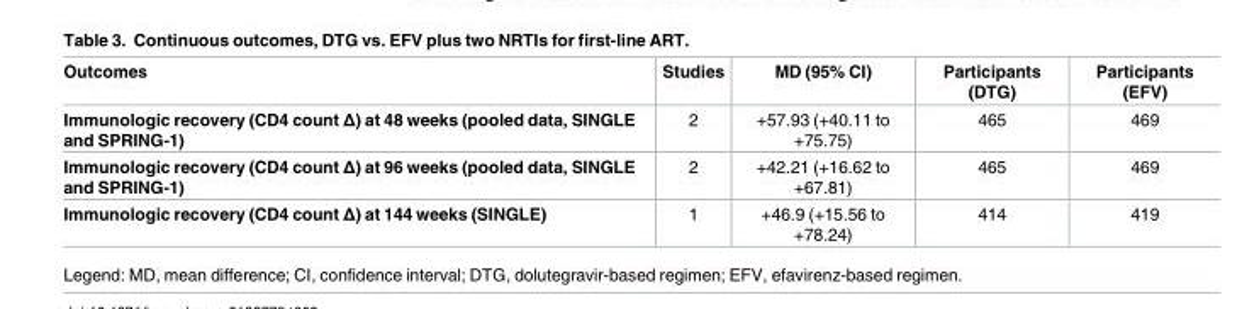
<table><thead><tr><td>Outcomes</td><td>Studies</td><td>MD (95% CI)</td><td>Participants (DTG)</td><td>Participants (EFV)</td></tr></thead><tbody><tr><td>Immunologic recovery (CD4 count Δ) at 48 weeks (pooled data, SINGLE and SPRING-1)</td><td>2</td><td>+57.93 (+40.11 to +75.75)</td><td>465</td><td>469</td></tr><tr><td>Immunologic recovery (CD4 count Δ) at 96 weeks (pooled data, SINGLE and SPRING-1)</td><td>2</td><td>+42.21 (+16.62 to +67.81)</td><td>465</td><td>469</td></tr><tr><td>Immunologic recovery (CD4 count Δ) at 144 weeks (SINGLE)</td><td>1</td><td>+46.9 (+15.56 to +78.24)</td><td>414</td><td>419</td></tr></tbody></table>